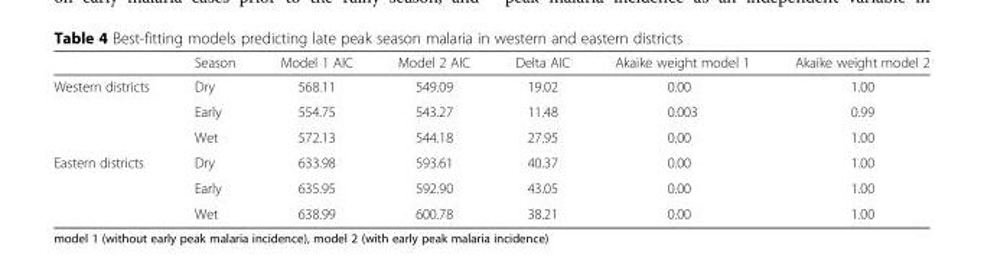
<table><thead><tr><td></td><td>Season</td><td>Model 1 AIC</td><td>Model 2 AIC</td><td>Delta AIC</td><td>Akaike weight model 1</td><td>Akaike weight model 2</td></tr></thead><tbody><tr><td rowspan="3">Western districts</td><td>Dry</td><td>568.11</td><td>549.09</td><td>19.02</td><td>0.00</td><td>1.00</td></tr><tr><td>Early</td><td>554.75</td><td>543.27</td><td>11.48</td><td>0.003</td><td>0.99</td></tr><tr><td>Wet</td><td>572.13</td><td>544.18</td><td>27.95</td><td>0.00</td><td>1.00</td></tr><tr><td rowspan="3">Eastern districts</td><td>Dry</td><td>633.98</td><td>593.61</td><td>40.37</td><td>0.00</td><td>1.00</td></tr><tr><td>Early</td><td>635.95</td><td>592.90</td><td>43.05</td><td>0.00</td><td>1.00</td></tr><tr><td>Wet</td><td>638.99</td><td>600.78</td><td>38.21</td><td>0.00</td><td>1.00</td></tr></tbody></table>